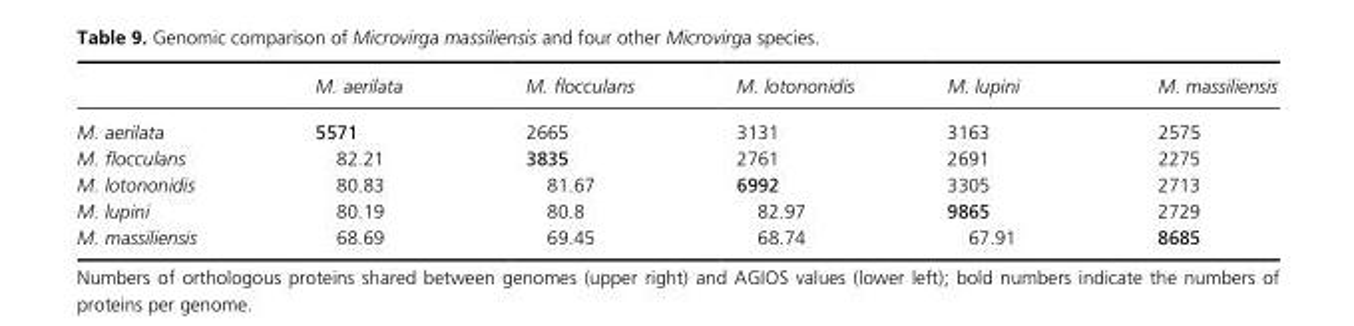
<table><thead><tr><td></td><td>M. aerilata</td><td>M. flocculans</td><td>M. lotononidis</td><td>M. lupini</td><td>M. massiliensis</td></tr></thead><tbody><tr><td>M. aerilata</td><td>5571</td><td>2665</td><td>3131</td><td>3163</td><td>2575</td></tr><tr><td>M. flocculans</td><td>82.21</td><td>3835</td><td>2761</td><td>2691</td><td>2275</td></tr><tr><td>M. lotononidis</td><td>80.83</td><td>81.67</td><td>6992</td><td>3305</td><td>2713</td></tr><tr><td>M. lupini</td><td>80.19</td><td>80.8</td><td>82.97</td><td>9865</td><td>2729</td></tr><tr><td>M. massiliensis</td><td>68.69</td><td>69.45</td><td>68.74</td><td>67.91</td><td>8685</td></tr></tbody></table>